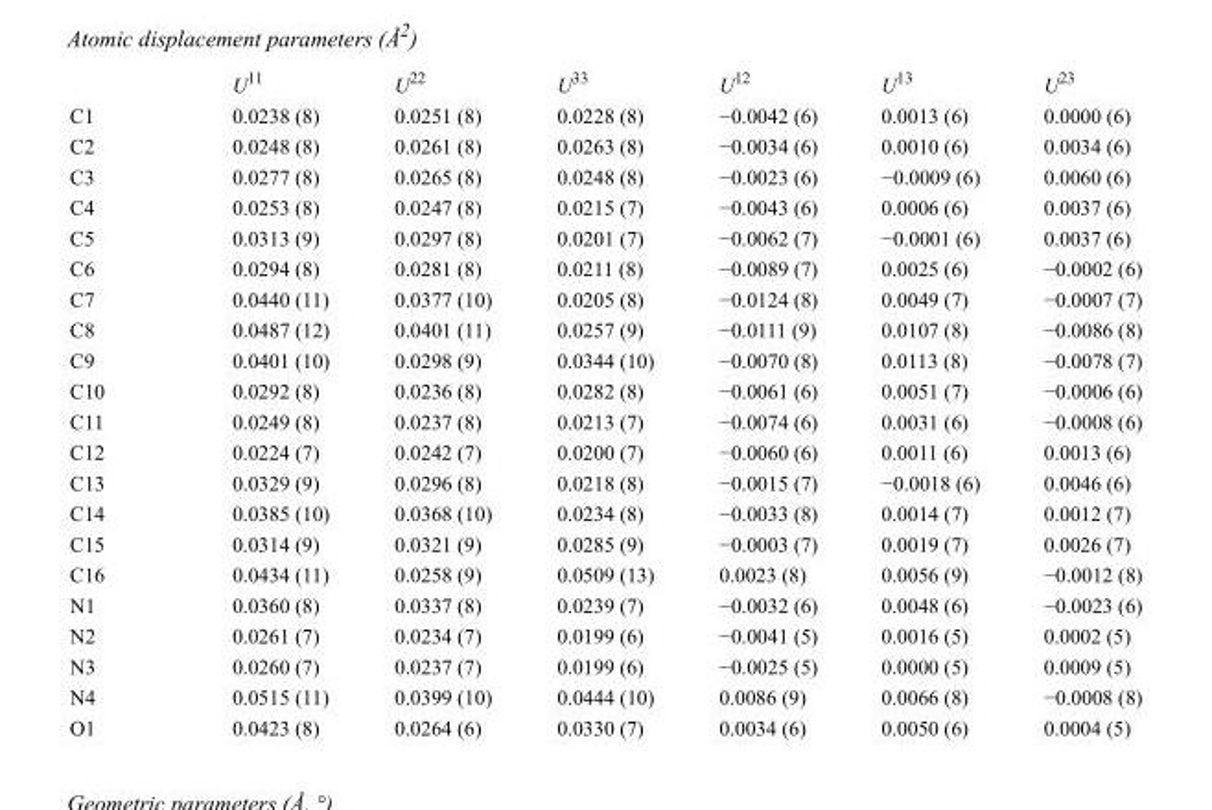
<table><thead><tr><td></td><td>U<sup>11</sup></td><td>U<sup>22</sup></td><td>U<sup>33</sup></td><td>U<sup>12</sup></td><td>U<sup>13</sup></td><td>U<sup>23</sup></td></tr></thead><tbody><tr><td>C1</td><td>0.0238 (8)</td><td>0.0251 (8)</td><td>0.0228 (8)</td><td>−0.0042 (6)</td><td>0.0013 (6)</td><td>0.0000 (6)</td></tr><tr><td>C2</td><td>0.0248 (8)</td><td>0.0261 (8)</td><td>0.0263 (8)</td><td>−0.0034 (6)</td><td>0.0010 (6)</td><td>0.0034 (6)</td></tr><tr><td>C3</td><td>0.0277 (8)</td><td>0.0265 (8)</td><td>0.0248 (8)</td><td>−0.0023 (6)</td><td>−0.0009 (6)</td><td>0.0060 (6)</td></tr><tr><td>C4</td><td>0.0253 (8)</td><td>0.0247 (8)</td><td>0.0215 (7)</td><td>−0.0043 (6)</td><td>0.0006 (6)</td><td>0.0037 (6)</td></tr><tr><td>C5</td><td>0.0313 (9)</td><td>0.0297 (8)</td><td>0.0201 (7)</td><td>−0.0062 (7)</td><td>−0.0001 (6)</td><td>0.0037 (6)</td></tr><tr><td>C6</td><td>0.0294 (8)</td><td>0.0281 (8)</td><td>0.0211 (8)</td><td>−0.0089 (7)</td><td>0.0025 (6)</td><td>−0.0002 (6)</td></tr><tr><td>C7</td><td>0.0440 (11)</td><td>0.0377 (10)</td><td>0.0205 (8)</td><td>−0.0124 (8)</td><td>0.0049 (7)</td><td>−0.0007 (7)</td></tr><tr><td>C8</td><td>0.0487 (12)</td><td>0.0401 (11)</td><td>0.0257 (9)</td><td>−0.0111 (9)</td><td>0.0107 (8)</td><td>−0.0086 (8)</td></tr><tr><td>C9</td><td>0.0401 (10)</td><td>0.0298 (9)</td><td>0.0344 (10)</td><td>−0.0070 (8)</td><td>0.0113 (8)</td><td>−0.0078 (7)</td></tr><tr><td>C10</td><td>0.0292 (8)</td><td>0.0236 (8)</td><td>0.0282 (8)</td><td>−0.0061 (6)</td><td>0.0051 (7)</td><td>−0.0006 (6)</td></tr><tr><td>C11</td><td>0.0249 (8)</td><td>0.0237 (8)</td><td>0.0213 (7)</td><td>−0.0074 (6)</td><td>0.0031 (6)</td><td>−0.0008 (6)</td></tr><tr><td>C12</td><td>0.0224 (7)</td><td>0.0242 (7)</td><td>0.0200 (7)</td><td>−0.0060 (6)</td><td>0.0011 (6)</td><td>0.0013 (6)</td></tr><tr><td>C13</td><td>0.0329 (9)</td><td>0.0296 (8)</td><td>0.0218 (8)</td><td>−0.0015 (7)</td><td>−0.0018 (6)</td><td>0.0046 (6)</td></tr><tr><td>C14</td><td>0.0385 (10)</td><td>0.0368 (10)</td><td>0.0234 (8)</td><td>−0.0033 (8)</td><td>0.0014 (7)</td><td>0.0012 (7)</td></tr><tr><td>C15</td><td>0.0314 (9)</td><td>0.0321 (9)</td><td>0.0285 (9)</td><td>−0.0003 (7)</td><td>0.0019 (7)</td><td>0.0026 (7)</td></tr><tr><td>C16</td><td>0.0434 (11)</td><td>0.0258 (9)</td><td>0.0509 (13)</td><td>0.0023 (8)</td><td>0.0056 (9)</td><td>−0.0012 (8)</td></tr><tr><td>N1</td><td>0.0360 (8)</td><td>0.0337 (8)</td><td>0.0239 (7)</td><td>−0.0032 (6)</td><td>0.0048 (6)</td><td>−0.0023 (6)</td></tr><tr><td>N2</td><td>0.0261 (7)</td><td>0.0234 (7)</td><td>0.0199 (6)</td><td>−0.0041 (5)</td><td>0.0016 (5)</td><td>0.0002 (5)</td></tr><tr><td>N3</td><td>0.0260 (7)</td><td>0.0237 (7)</td><td>0.0199 (6)</td><td>−0.0025 (5)</td><td>0.0000 (5)</td><td>0.0009 (5)</td></tr><tr><td>N4</td><td>0.0515 (11)</td><td>0.0399 (10)</td><td>0.0444 (10)</td><td>0.0086 (9)</td><td>0.0066 (8)</td><td>−0.0008 (8)</td></tr><tr><td>O1</td><td>0.0423 (8)</td><td>0.0264 (6)</td><td>0.0330 (7)</td><td>0.0034 (6)</td><td>0.0050 (6)</td><td>0.0004 (5)</td></tr></tbody></table>